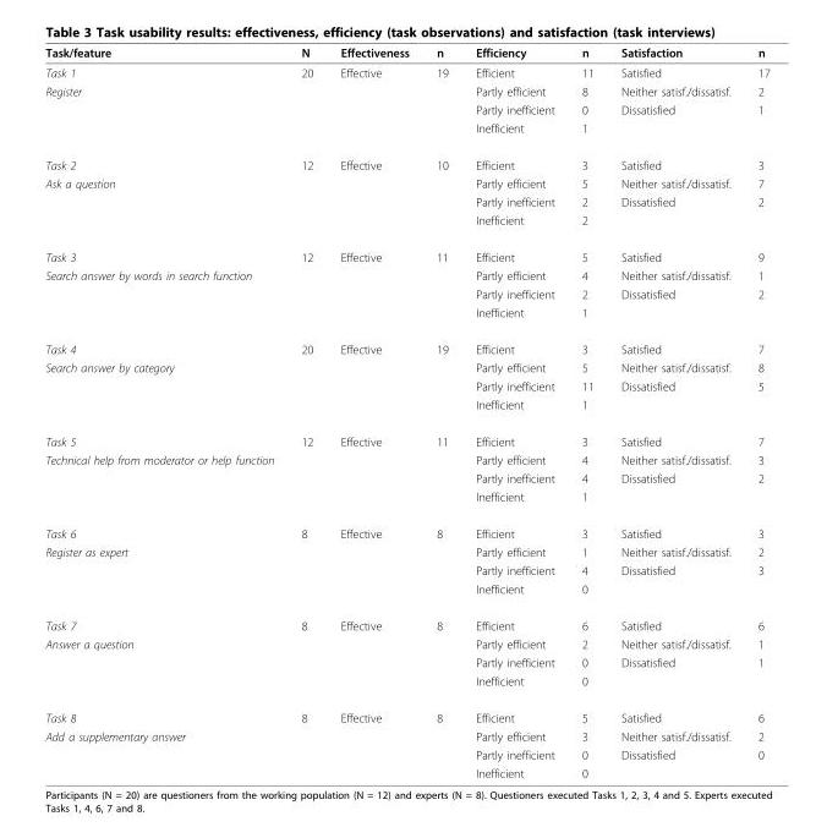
<table><thead><tr><td>Task/feature</td><td>N</td><td>Effectiveness</td><td>n</td><td>Efficiency</td><td>n</td><td>Satisfaction</td><td>n</td></tr></thead><tbody><tr><td>Task 1</td><td>20</td><td>Effective</td><td>19</td><td>Efficient</td><td>11</td><td>Satisfied</td><td>17</td></tr><tr><td rowspan="3">Register</td><td></td><td></td><td></td><td>Partly efficient</td><td>8</td><td>Neither satisf./dissatisf.</td><td>2</td></tr><tr><td></td><td></td><td></td><td>Partly inefficient</td><td>0</td><td>Dissatisfied</td><td>1</td></tr><tr><td></td><td></td><td></td><td>Inefficient</td><td>1</td><td></td><td></td></tr><tr><td>Task 2</td><td>12</td><td>Effective</td><td>10</td><td>Efficient</td><td>3</td><td>Satisfied</td><td>3</td></tr><tr><td rowspan="3">Ask a question</td><td></td><td></td><td></td><td>Partly efficient</td><td>5</td><td>Neither satisf./dissatisf.</td><td>7</td></tr><tr><td></td><td></td><td></td><td>Partly inefficient</td><td>2</td><td>Dissatisfied</td><td>2</td></tr><tr><td></td><td></td><td></td><td>Inefficient</td><td>2</td><td></td><td></td></tr><tr><td>Task 3</td><td>12</td><td>Effective</td><td>11</td><td>Efficient</td><td>5</td><td>Satisfied</td><td>9</td></tr><tr><td rowspan="3">Search answer by words in search function</td><td></td><td></td><td></td><td>Partly efficient</td><td>4</td><td>Neither satisf./dissatisf.</td><td>1</td></tr><tr><td></td><td></td><td></td><td>Partly inefficient</td><td>2</td><td>Dissatisfied</td><td>2</td></tr><tr><td></td><td></td><td></td><td>Inefficient</td><td>1</td><td></td><td></td></tr><tr><td>Task 4</td><td>20</td><td>Effective</td><td>19</td><td>Efficient</td><td>3</td><td>Satisfied</td><td>7</td></tr><tr><td rowspan="3">Search answer by category</td><td></td><td></td><td></td><td>Partly efficient</td><td>5</td><td>Neither satisf./dissatisf.</td><td>8</td></tr><tr><td></td><td></td><td></td><td>Partly inefficient</td><td>11</td><td>Dissatisfied</td><td>5</td></tr><tr><td></td><td></td><td></td><td>Inefficient</td><td>1</td><td></td><td></td></tr><tr><td>Task 5</td><td>12</td><td>Effective</td><td>11</td><td>Efficient</td><td>3</td><td>Satisfied</td><td>7</td></tr><tr><td rowspan="3">Technical help from moderator or help function</td><td></td><td></td><td></td><td>Partly efficient</td><td>4</td><td>Neither satisf./dissatisf.</td><td>3</td></tr><tr><td></td><td></td><td></td><td>Partly inefficient</td><td>4</td><td>Dissatisfied</td><td>2</td></tr><tr><td></td><td></td><td></td><td>Inefficient</td><td>1</td><td></td><td></td></tr><tr><td>Task 6</td><td>8</td><td>Effective</td><td>8</td><td>Efficient</td><td>3</td><td>Satisfied</td><td>3</td></tr><tr><td rowspan="3">Register as expert</td><td></td><td></td><td></td><td>Partly efficient</td><td>1</td><td>Neither satisf./dissatisf.</td><td>2</td></tr><tr><td></td><td></td><td></td><td>Partly inefficient</td><td>4</td><td>Dissatisfied</td><td>3</td></tr><tr><td></td><td></td><td></td><td>Inefficient</td><td>0</td><td></td><td></td></tr><tr><td>Task 7</td><td>8</td><td>Effective</td><td>8</td><td>Efficient</td><td>6</td><td>Satisfied</td><td>6</td></tr><tr><td rowspan="3">Answer a question</td><td></td><td></td><td></td><td>Partly efficient</td><td>2</td><td>Neither satisf./dissatisf.</td><td>1</td></tr><tr><td></td><td></td><td></td><td>Partly inefficient</td><td>0</td><td>Dissatisfied</td><td>1</td></tr><tr><td></td><td></td><td></td><td>Inefficient</td><td>0</td><td></td><td></td></tr><tr><td>Task 8</td><td>8</td><td>Effective</td><td>8</td><td>Efficient</td><td>5</td><td>Satisfied</td><td>6</td></tr><tr><td rowspan="3">Add a supplementary answer</td><td></td><td></td><td></td><td>Partly efficient</td><td>3</td><td>Neither satisf./dissatisf.</td><td>2</td></tr><tr><td></td><td></td><td></td><td>Partly inefficient</td><td>0</td><td>Dissatisfied</td><td>0</td></tr><tr><td></td><td></td><td></td><td>Inefficient</td><td>0</td><td></td><td></td></tr></tbody></table>